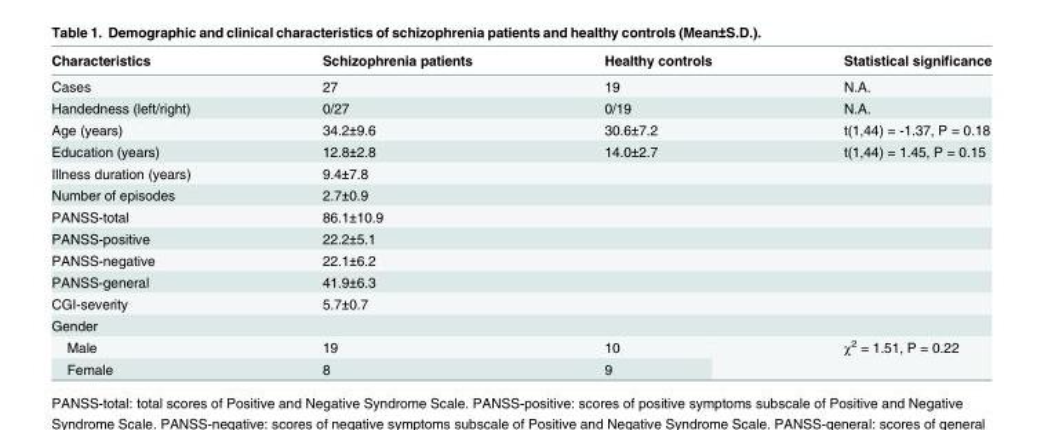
<table><thead><tr><td>Characteristics</td><td>Schizophrenia patients</td><td>Healthy controls</td><td>Statistical significance</td></tr></thead><tbody><tr><td>Cases</td><td>27</td><td>19</td><td>N.A.</td></tr><tr><td>Handedness (left/right)</td><td>0/27</td><td>0/19</td><td>N.A.</td></tr><tr><td>Age (years)</td><td>34.2±9.6</td><td>30.6±7.2</td><td>t(1,44) = -1.37, P = 0.18</td></tr><tr><td>Education (years)</td><td>12.8±2.8</td><td>14.0±2.7</td><td>t(1,44) = 1.45, P = 0.15</td></tr><tr><td>Illness duration (years)</td><td>9.4±7.8</td><td></td><td></td></tr><tr><td>Number of episodes</td><td>2.7±0.9</td><td></td><td></td></tr><tr><td>PANSS-total</td><td>86.1±10.9</td><td></td><td></td></tr><tr><td>PANSS-positive</td><td>22.2±5.1</td><td></td><td></td></tr><tr><td>PANSS-negative</td><td>22.1±6.2</td><td></td><td></td></tr><tr><td>PANSS-general</td><td>41.9±6.3</td><td></td><td></td></tr><tr><td>CGI-severity</td><td>5.7±0.7</td><td></td><td></td></tr><tr><td colspan="4">Gender</td></tr><tr><td>Male</td><td>19</td><td>10</td><td rowspan="2">χ<sup>2</sup> = 1.51, P = 0.22</td></tr><tr><td>Female</td><td>8</td><td>9</td></tr></tbody></table>